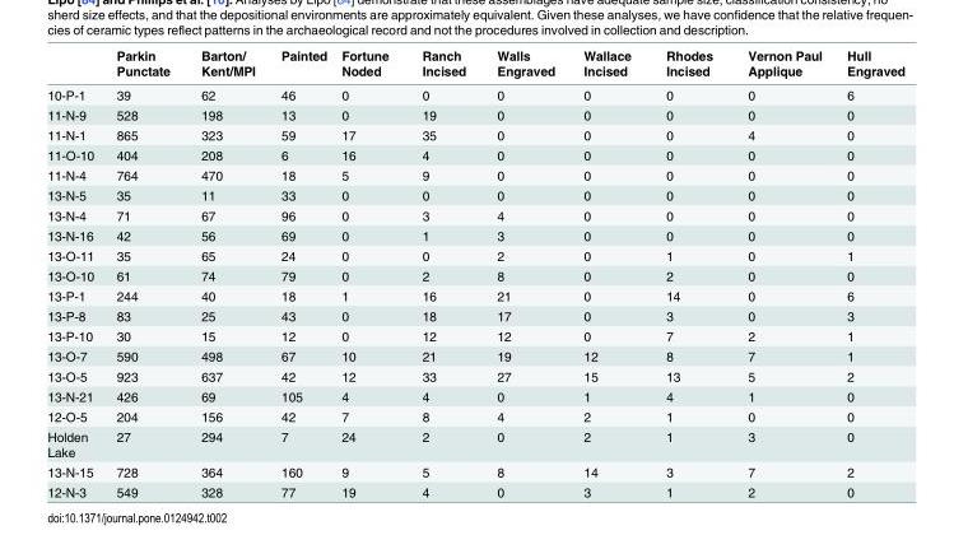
<table><thead><tr><td></td><td>Parkin Punctate</td><td>Barton/ Kent/MPI</td><td>Painted</td><td>Fortune Noded</td><td>Ranch Incised</td><td>Walls Engraved</td><td>Wallace Incised</td><td>Rhodes Incised</td><td>Vernon Paul Applique</td><td>Hull Engraved</td></tr></thead><tbody><tr><td>10-P-1</td><td>39</td><td>62</td><td>46</td><td>0</td><td>0</td><td>0</td><td>0</td><td>0</td><td>0</td><td>6</td></tr><tr><td>11-N-9</td><td>528</td><td>198</td><td>13</td><td>0</td><td>19</td><td>0</td><td>0</td><td>0</td><td>0</td><td>0</td></tr><tr><td>11-N-1</td><td>865</td><td>323</td><td>59</td><td>17</td><td>35</td><td>0</td><td>0</td><td>0</td><td>4</td><td>0</td></tr><tr><td>11-O-10</td><td>404</td><td>208</td><td>6</td><td>16</td><td>4</td><td>0</td><td>0</td><td>0</td><td>0</td><td>0</td></tr><tr><td>11-N-4</td><td>764</td><td>470</td><td>18</td><td>5</td><td>9</td><td>0</td><td>0</td><td>0</td><td>0</td><td>0</td></tr><tr><td>13-N-5</td><td>35</td><td>11</td><td>33</td><td>0</td><td>0</td><td>0</td><td>0</td><td>0</td><td>0</td><td>0</td></tr><tr><td>13-N-4</td><td>71</td><td>67</td><td>96</td><td>0</td><td>3</td><td>4</td><td>0</td><td>0</td><td>0</td><td>0</td></tr><tr><td>13-N-16</td><td>42</td><td>56</td><td>69</td><td>0</td><td>1</td><td>3</td><td>0</td><td>0</td><td>0</td><td>0</td></tr><tr><td>13-O-11</td><td>35</td><td>65</td><td>24</td><td>0</td><td>0</td><td>2</td><td>0</td><td>1</td><td>0</td><td>1</td></tr><tr><td>13-O-10</td><td>61</td><td>74</td><td>79</td><td>0</td><td>2</td><td>8</td><td>0</td><td>2</td><td>0</td><td>0</td></tr><tr><td>13-P-1</td><td>244</td><td>40</td><td>18</td><td>1</td><td>16</td><td>21</td><td>0</td><td>14</td><td>0</td><td>6</td></tr><tr><td>13-P-8</td><td>83</td><td>25</td><td>43</td><td>0</td><td>18</td><td>17</td><td>0</td><td>3</td><td>0</td><td>3</td></tr><tr><td>13-P-10</td><td>30</td><td>15</td><td>12</td><td>0</td><td>12</td><td>12</td><td>0</td><td>7</td><td>2</td><td>1</td></tr><tr><td>13-O-7</td><td>590</td><td>498</td><td>67</td><td>10</td><td>21</td><td>19</td><td>12</td><td>8</td><td>7</td><td>1</td></tr><tr><td>13-O-5</td><td>923</td><td>637</td><td>42</td><td>12</td><td>33</td><td>27</td><td>15</td><td>13</td><td>5</td><td>2</td></tr><tr><td>13-N-21</td><td>426</td><td>69</td><td>105</td><td>4</td><td>4</td><td>0</td><td>1</td><td>4</td><td>1</td><td>0</td></tr><tr><td>12-O-5</td><td>204</td><td>156</td><td>42</td><td>7</td><td>8</td><td>4</td><td>2</td><td>1</td><td>0</td><td>0</td></tr><tr><td>Holden Lake</td><td>27</td><td>294</td><td>7</td><td>24</td><td>2</td><td>0</td><td>2</td><td>1</td><td>3</td><td>0</td></tr><tr><td>13-N-15</td><td>728</td><td>364</td><td>160</td><td>9</td><td>5</td><td>8</td><td>14</td><td>3</td><td>7</td><td>2</td></tr><tr><td>12-N-3</td><td>549</td><td>328</td><td>77</td><td>19</td><td>4</td><td>0</td><td>3</td><td>1</td><td>2</td><td>0</td></tr></tbody></table>